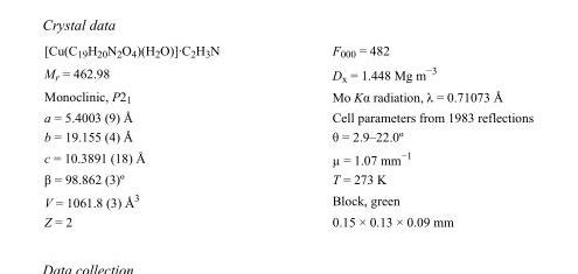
<table><tbody><tr><td>[Cu(C<sub>19</sub>H<sub>20</sub>N<sub>2</sub>O<sub>4</sub>)(H<sub>2</sub>O)]·C<sub>2</sub>H<sub>3</sub>N</td><td>F000 = 482</td></tr><tr><td>M<sub>r</sub> = 462.98</td><td>D<sub>x</sub> = 1.448 Mg m<sup>−3</sup></td></tr><tr><td>Monoclinic, P2<sub>1</sub></td><td>Mo Kα radiation, λ = 0.71073 Å</td></tr><tr><td>a = 5.4003 (9) Å</td><td>Cell parameters from 1983 reflections</td></tr><tr><td>b = 19.155 (4) Å</td><td>θ = 2.9–22.0º</td></tr><tr><td>c = 10.3891 (18) Å</td><td>µ = 1.07 mm<sup>−1</sup></td></tr><tr><td>β = 98.862 (3)º</td><td>T = 273 K</td></tr><tr><td>V = 1061.8 (3) Å<sup>3</sup></td><td>Block, green</td></tr><tr><td>Z = 2</td><td>0.15 × 0.13 × 0.09 mm</td></tr></tbody></table>